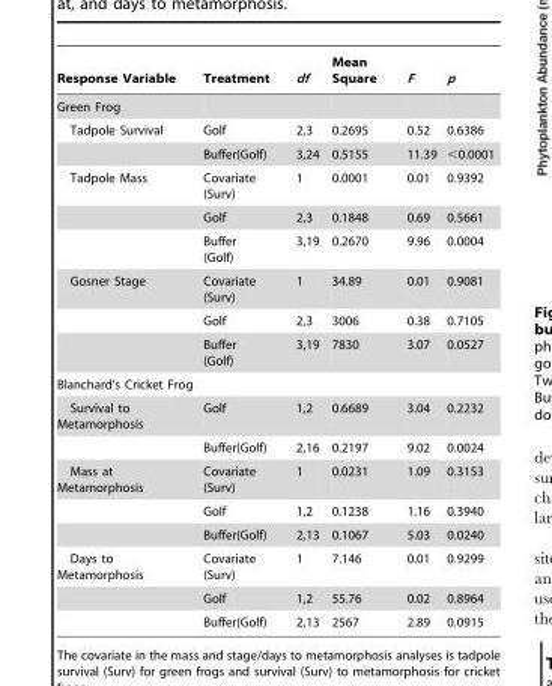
<table><thead><tr><td>Response Variable</td><td>Treatment</td><td>df</td><td>Mean Square</td><td>F</td><td>p</td></tr></thead><tbody><tr><td colspan="6">Green Frog</td></tr><tr><td rowspan="2">Tadpole Survival</td><td>Golf</td><td>2,3</td><td>0.2695</td><td>0.52</td><td>0.6386</td></tr><tr><td>Buffer(Golf)</td><td>3,24</td><td>0.5155</td><td>11.39</td><td>&lt;0.0001</td></tr><tr><td rowspan="3">Tadpole Mass</td><td>Covariate (Surv)</td><td>1</td><td>0.0001</td><td>0.01</td><td>0.9392</td></tr><tr><td>Golf</td><td>2,3</td><td>0.1848</td><td>0.69</td><td>0.5661</td></tr><tr><td>Buffer (Golf)</td><td>3,19</td><td>0.2670</td><td>9.96</td><td>0.0004</td></tr><tr><td rowspan="3">Gosner Stage</td><td>Covariate (Surv)</td><td>1</td><td>34.89</td><td>0.01</td><td>0.9081</td></tr><tr><td>Golf</td><td>2,3</td><td>3006</td><td>0.38</td><td>0.7105</td></tr><tr><td>Buffer (Golf)</td><td>3,19</td><td>7830</td><td>3.07</td><td>0.0527</td></tr><tr><td colspan="6">Blanchard’s Cricket Frog</td></tr><tr><td rowspan="2">Survival to Metamorphosis</td><td>Golf</td><td>1,2</td><td>0.6689</td><td>3.04</td><td>0.2232</td></tr><tr><td>Buffer(Golf)</td><td>2,16</td><td>0.2197</td><td>9.02</td><td>0.0024</td></tr><tr><td rowspan="3">Mass at Metamorphosis</td><td>Covariate (Surv)</td><td>1</td><td>0.0231</td><td>1.09</td><td>0.3153</td></tr><tr><td>Golf</td><td>1,2</td><td>0.1238</td><td>1.16</td><td>0.3940</td></tr><tr><td>Buffer(Golf)</td><td>2,13</td><td>0.1067</td><td>5.03</td><td>0.0240</td></tr><tr><td rowspan="3">Days to Metamorphosis</td><td>Covariate (Surv)</td><td>1</td><td>7.146</td><td>0.01</td><td>0.9299</td></tr><tr><td>Golf</td><td>1,2</td><td>55.76</td><td>0.02</td><td>0.8964</td></tr><tr><td>Buffer(Golf)</td><td>2,13</td><td>2567</td><td>2.89</td><td>0.0915</td></tr></tbody></table>